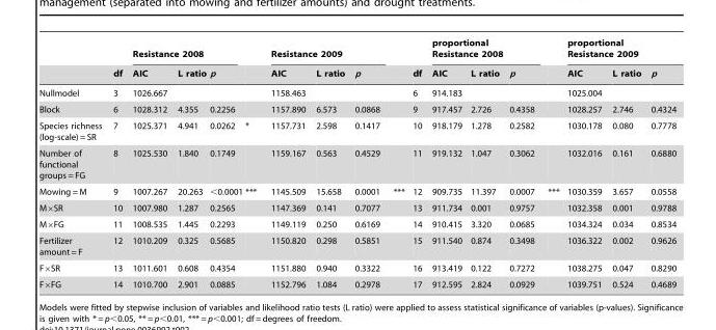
<table><thead><tr><td rowspan="2"></td><td rowspan="2">df</td><td colspan="3">Resistance 2008</td><td rowspan="2"></td><td colspan="3">Resistance 2009</td><td rowspan="2"></td><td rowspan="2">df</td><td colspan="3">proportional Resistance 2008</td><td rowspan="2"></td><td colspan="3">proportional Resistance 2009</td></tr><tr><td>AIC</td><td>L ratio</td><td>p</td><td>AIC</td><td>L ratio</td><td>p</td><td>AIC</td><td>L ratio</td><td>p</td><td>AIC</td><td>L ratio</td><td>p</td></tr></thead><tbody><tr><td>Nullmodel</td><td>3</td><td>1026.667</td><td></td><td></td><td></td><td>1158.463</td><td></td><td></td><td></td><td>6</td><td>914.183</td><td></td><td></td><td></td><td>1025.004</td><td></td><td></td></tr><tr><td>Block</td><td>6</td><td>1028.312</td><td>4.355</td><td>0.2256</td><td></td><td>1157.890</td><td>6.573</td><td>0.0868</td><td></td><td>9</td><td>917.457</td><td>2.726</td><td>0.4358</td><td></td><td>1028.257</td><td>2.746</td><td>0.4324</td></tr><tr><td>Species richness (log-scale) = SR</td><td>7</td><td>1025.371</td><td>4.941</td><td>0.0262</td><td>*</td><td>1157.731</td><td>2.598</td><td>0.1417</td><td></td><td>10</td><td>918.179</td><td>1.278</td><td>0.2582</td><td></td><td>1030.178</td><td>0.080</td><td>0.7778</td></tr><tr><td>Number of functional groups = FG</td><td>8</td><td>1025.530</td><td>1.840</td><td>0.1749</td><td></td><td>1159.167</td><td>0.563</td><td>0.4529</td><td></td><td>11</td><td>919.132</td><td>1.047</td><td>0.3062</td><td></td><td>1032.016</td><td>0.161</td><td>0.6880</td></tr><tr><td>Mowing = M</td><td>9</td><td>1007.267</td><td>20.263</td><td>&lt;0.0001</td><td>***</td><td>1145.509</td><td>15.658</td><td>0.0001</td><td>***</td><td>12</td><td>909.735</td><td>11.397</td><td>0.0007</td><td>***</td><td>1030.359</td><td>3.657</td><td>0.0558</td></tr><tr><td>M×SR</td><td>10</td><td>1007.980</td><td>1.287</td><td>0.2565</td><td></td><td>1147.369</td><td>0.141</td><td>0.7077</td><td></td><td>13</td><td>911.734</td><td>0.001</td><td>0.9757</td><td></td><td>1032.358</td><td>0.001</td><td>0.9788</td></tr><tr><td>M×FG</td><td>11</td><td>1008.535</td><td>1.445</td><td>0.2293</td><td></td><td>1149.119</td><td>0.250</td><td>0.6169</td><td></td><td>14</td><td>910.415</td><td>3.320</td><td>0.0685</td><td></td><td>1034.324</td><td>0.034</td><td>0.8534</td></tr><tr><td>Fertilizer amount = F</td><td>12</td><td>1010.209</td><td>0.325</td><td>0.5685</td><td></td><td>1150.820</td><td>0.298</td><td>0.5851</td><td></td><td>15</td><td>911.540</td><td>0.874</td><td>0.3498</td><td></td><td>1036.322</td><td>0.002</td><td>0.9626</td></tr><tr><td>F×SR</td><td>13</td><td>1011.601</td><td>0.608</td><td>0.4354</td><td></td><td>1151.880</td><td>0.940</td><td>0.3322</td><td></td><td>16</td><td>913.419</td><td>0.122</td><td>0.7272</td><td></td><td>1038.275</td><td>0.047</td><td>0.8290</td></tr><tr><td>F×FG</td><td>14</td><td>1010.700</td><td>2.901</td><td>0.0885</td><td></td><td>1152.796</td><td>1.084</td><td>0.2978</td><td></td><td>17</td><td>912.595</td><td>2.824</td><td>0.0929</td><td></td><td>1039.751</td><td>0.524</td><td>0.4689</td></tr></tbody></table>